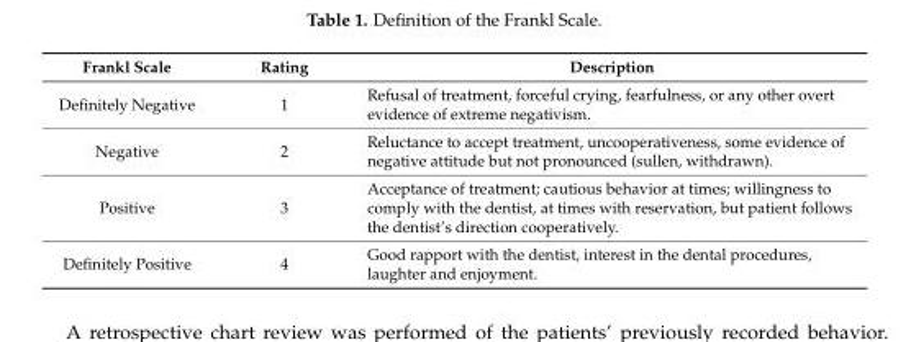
<table><thead><tr><td>Frankl Scale</td><td>Rating</td><td>Description</td></tr></thead><tbody><tr><td>Definitely Negative</td><td>1</td><td>Refusal of treatment, forceful crying, fearfulness, or any other overt evidence of extreme negativism.</td></tr><tr><td>Negative</td><td>2</td><td>Reluctance to accept treatment, uncooperativeness, some evidence of negative attitude but not pronounced (sullen, withdrawn).</td></tr><tr><td>Positive</td><td>3</td><td>Acceptance of treatment; cautious behavior at times; willingness to comply with the dentist, at times with reservation, but patient follows the dentist’s direction cooperatively.</td></tr><tr><td>Definitely Positive</td><td>4</td><td>Good rapport with the dentist, interest in the dental procedures, laughter and enjoyment.</td></tr></tbody></table>